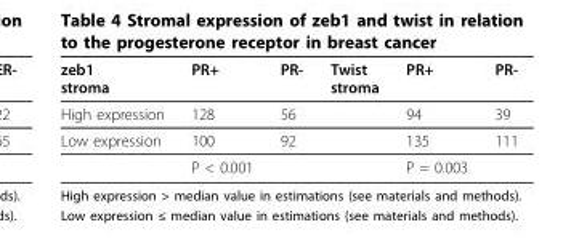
<table><thead><tr><td>zeb1 stroma</td><td>PR+</td><td>PR-</td><td>Twist stroma</td><td>PR+</td><td>PR-</td></tr></thead><tbody><tr><td>High expression</td><td>128</td><td>56</td><td></td><td>94</td><td>39</td></tr><tr><td rowspan="2">Low expression</td><td>100</td><td>92</td><td></td><td>135</td><td>111</td></tr><tr><td>P &lt; 0.001</td><td></td><td></td><td>P = 0.003</td><td></td></tr></tbody></table>